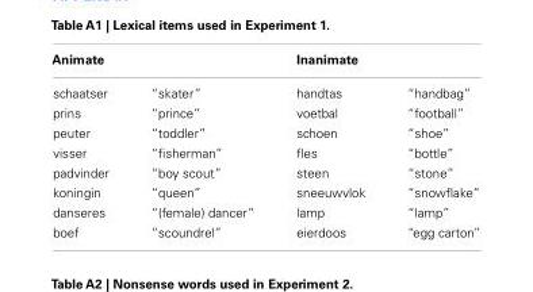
<table><thead><tr><td>Animate</td><td></td><td>Inanimate</td><td></td></tr></thead><tbody><tr><td>schaatser</td><td>“skater”</td><td>handtas</td><td>“handbag”</td></tr><tr><td>prins</td><td>“prince”</td><td>voetbal</td><td>“football”</td></tr><tr><td>peuter</td><td>“toddler”</td><td>schoen</td><td>“shoe”</td></tr><tr><td>visser</td><td>“fisherman”</td><td>fles</td><td>“bottle”</td></tr><tr><td>padvinder</td><td>“boy scout”</td><td>steen</td><td>“stone”</td></tr><tr><td>koningin</td><td>“queen”</td><td>sneeuwvlok</td><td>“snowflake”</td></tr><tr><td>danseres</td><td>“(female) dancer”</td><td>lamp</td><td>“lamp”</td></tr><tr><td>boef</td><td>“scoundrel”</td><td>eierdoos</td><td>“egg carton”</td></tr></tbody></table>